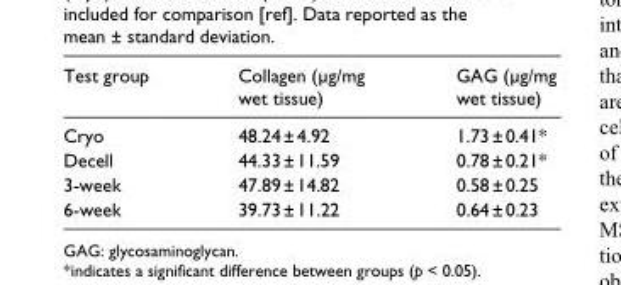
<table><thead><tr><td>Test group</td><td>Collagen (µg/mg wet tissue)</td><td>GAG (µg/mg wet tissue)</td></tr></thead><tbody><tr><td>Cryo</td><td>48.24 ± 4.92</td><td>1.73 ± 0.41*</td></tr><tr><td>Decell</td><td>44.33 ± 11.59</td><td>0.78 ± 0.21*</td></tr><tr><td>3-week</td><td>47.89 ± 14.82</td><td>0.58 ± 0.25</td></tr><tr><td>6-week</td><td>39.73 ± 11.22</td><td>0.64 ± 0.23</td></tr></tbody></table>